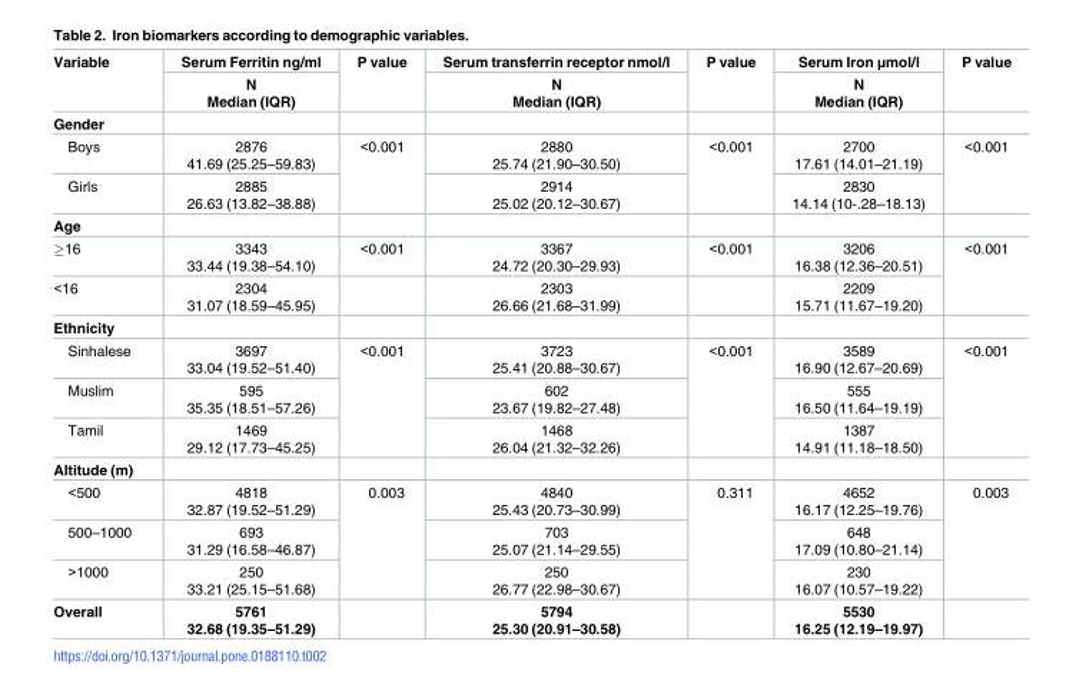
<table><thead><tr><td rowspan="2">Variable</td><td rowspan="2">Serum Ferritin ng/ml N Median (IQR)</td><td rowspan="2">P value</td><td rowspan="2">Serum transferrin receptor nmol/l N Median (IQR)</td><td rowspan="2">P value</td><td rowspan="2">Serum Iron μmol/l N Median (IQR)</td><td rowspan="2">P value</td></tr><tr></tr></thead><tbody><tr><td colspan="7">Gender</td></tr><tr><td>Boys</td><td>2876 41.69 (25.25–59.83)</td><td rowspan="2">&lt;0.001</td><td>2880 25.74 (21.90–30.50)</td><td rowspan="2">&lt;0.001</td><td>2700 17.61 (14.01–21.19)</td><td rowspan="2">&lt;0.001</td></tr><tr><td>Girls</td><td>2885 26.63 (13.82–38.88)</td><td>2914 25.02 (20.12–30.67)</td><td>2830 14.14 (10-.28–18.13)</td></tr><tr><td colspan="7">Age</td></tr><tr><td>≥16</td><td>3343 33.44 (19.38–54.10)</td><td>&lt;0.001</td><td>3367 24.72 (20.30–29.93)</td><td>&lt;0.001</td><td>3206 16.38 (12.36–20.51)</td><td rowspan="2">&lt;0.001</td></tr><tr><td>&lt;16</td><td>2304 31.07 (18.59–45.95)</td><td></td><td>2303 26.66 (21.68–31.99)</td><td></td><td>2209 15.71 (11.67–19.20)</td></tr><tr><td colspan="7">Ethnicity</td></tr><tr><td>Sinhalese</td><td>3697 33.04 (19.52–51.40)</td><td rowspan="3">&lt;0.001</td><td>3723 25.41 (20.88–30.67)</td><td rowspan="3">&lt;0.001</td><td>3589 16.90 (12.67–20.69)</td><td rowspan="3">&lt;0.001</td></tr><tr><td>Muslim</td><td>595 35.35 (18.51–57.26)</td><td>602 23.67 (19.82–27.48)</td><td>555 16.50 (11.64–19.19)</td></tr><tr><td>Tamil</td><td>1469 29.12 (17.73–45.25)</td><td>1468 26.04 (21.32–32.26)</td><td>1387 14.91 (11.18–18.50)</td></tr><tr><td colspan="7">Altitude (m)</td></tr><tr><td>&lt;500</td><td>4818 32.87 (19.52–51.29)</td><td rowspan="3">0.003</td><td>4840 25.43 (20.73–30.99)</td><td rowspan="3">0.311</td><td>4652 16.17 (12.25–19.76)</td><td rowspan="3">0.003</td></tr><tr><td>500–1000</td><td>693 31.29 (16.58–46.87)</td><td>703 25.07 (21.14–29.55)</td><td>648 17.09 (10.80–21.14)</td></tr><tr><td>&gt;1000</td><td>250 33.21 (25.15–51.68)</td><td>250 26.77 (22.98–30.67)</td><td>230 16.07 (10.57–19.22)</td></tr><tr><td>Overall</td><td>5761 32.68 (19.35–51.29)</td><td></td><td>5794 25.30 (20.91–30.58)</td><td></td><td>5530 16.25 (12.19–19.97)</td><td></td></tr></tbody></table>